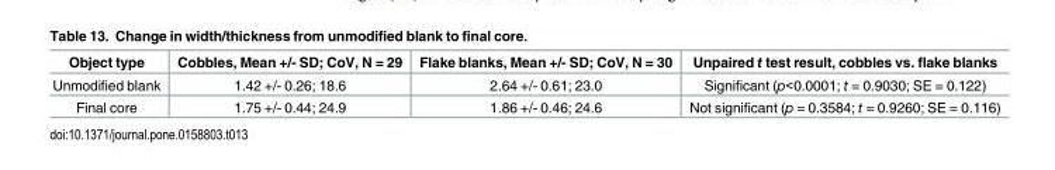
<table><thead><tr><td>Object type</td><td>Cobbles, Mean +/- SD; CoV, N = 29</td><td>Flake blanks, Mean +/- SD; CoV, N = 30</td><td>Unpaired t test result, cobbles vs. flake blanks</td></tr></thead><tbody><tr><td>Unmodified blank</td><td>1.42 +/- 0.26; 18.6</td><td>2.64 +/- 0.61; 23.0</td><td>Significant (p&lt;0.0001; t = 0.9030; SE = 0.122)</td></tr><tr><td>Final core</td><td>1.75 +/- 0.44; 24.9</td><td>1.86 +/- 0.46; 24.6</td><td>Not significant (p = 0.3584; t = 0.9260; SE = 0.116)</td></tr></tbody></table>